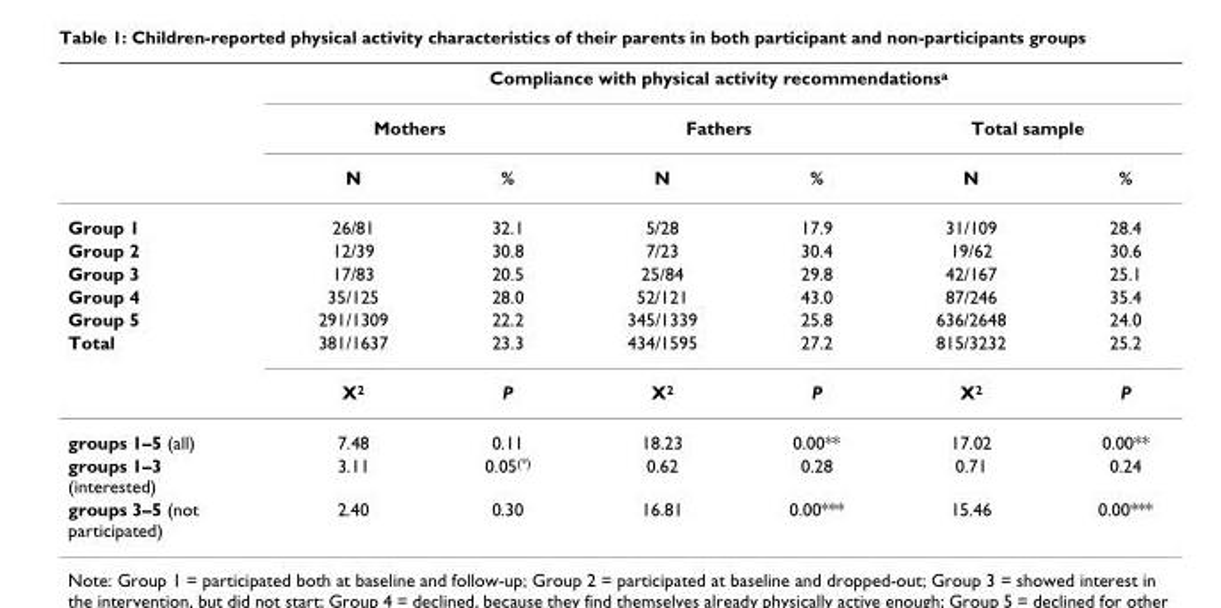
<table><thead><tr><td rowspan="3"></td><td colspan="6">Compliance with physical activity recommendations<sup>a</sup></td></tr><tr><td colspan="2">Mothers</td><td colspan="2">Fathers</td><td colspan="2">Total sample</td></tr><tr><td>N</td><td>%</td><td>N</td><td>%</td><td>N</td><td>%</td></tr></thead><tbody><tr><td>Group 1</td><td>26/81</td><td>32.1</td><td>5/28</td><td>17.9</td><td>31/109</td><td>28.4</td></tr><tr><td>Group 2</td><td>12/39</td><td>30.8</td><td>7/23</td><td>30.4</td><td>19/62</td><td>30.6</td></tr><tr><td>Group 3</td><td>17/83</td><td>20.5</td><td>25/84</td><td>29.8</td><td>42/167</td><td>25.1</td></tr><tr><td>Group 4</td><td>35/125</td><td>28.0</td><td>52/121</td><td>43.0</td><td>87/246</td><td>35.4</td></tr><tr><td>Group 5</td><td>291/1309</td><td>22.2</td><td>345/1339</td><td>25.8</td><td>636/2648</td><td>24.0</td></tr><tr><td rowspan="2">Total</td><td>381/1637</td><td>23.3</td><td>434/1595</td><td>27.2</td><td>815/3232</td><td>25.2</td></tr><tr><td>X2</td><td>P</td><td>X2</td><td>P</td><td>X2</td><td>P</td></tr><tr><td>groups 1–5 (all)</td><td>7.48</td><td>0.11</td><td>18.23</td><td>0.00**</td><td>17.02</td><td>0.00**</td></tr><tr><td>groups 1–3 (interested)</td><td>3.11</td><td>0.05<sup>(*)</sup></td><td>0.62</td><td>0.28</td><td>0.71</td><td>0.24</td></tr><tr><td>groups 3–5 (not participated)</td><td>2.40</td><td>0.30</td><td>16.81</td><td>0.00***</td><td>15.46</td><td>0.00***</td></tr></tbody></table>